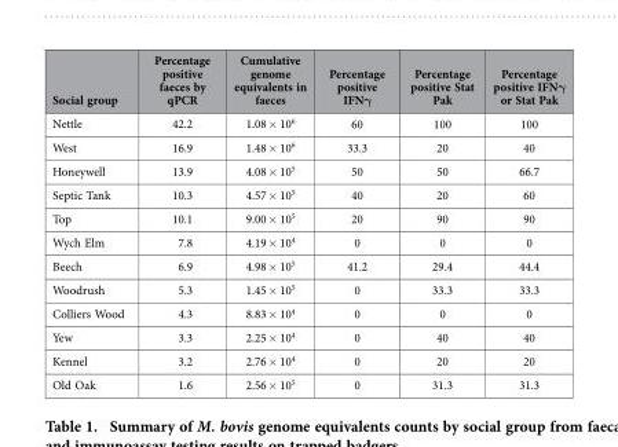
<table><thead><tr><td>Social group</td><td>Percentage positive faeces by qPCR</td><td>Cumulative genome equivalents in faeces</td><td>Percentage positive IFNγ</td><td>Percentage positive Stat Pak</td><td>Percentage positive IFNγ or Stat Pak</td></tr></thead><tbody><tr><td>Nettle</td><td>42.2</td><td>1.08 × 10<sup>6</sup></td><td>60</td><td>100</td><td>100</td></tr><tr><td>West</td><td>16.9</td><td>1.48 × 10<sup>6</sup></td><td>33.3</td><td>20</td><td>40</td></tr><tr><td>Honeywell</td><td>13.9</td><td>4.08 × 10<sup>5</sup></td><td>50</td><td>50</td><td>66.7</td></tr><tr><td>Septic Tank</td><td>10.3</td><td>4.57 × 10<sup>5</sup></td><td>40</td><td>20</td><td>60</td></tr><tr><td>Top</td><td>10.1</td><td>9.00 × 10<sup>5</sup></td><td>20</td><td>90</td><td>90</td></tr><tr><td>Wych Elm</td><td>7.8</td><td>4.19 × 10<sup>4</sup></td><td>0</td><td>0</td><td>0</td></tr><tr><td>Beech</td><td>6.9</td><td>4.98 × 10<sup>5</sup></td><td>41.2</td><td>29.4</td><td>44.4</td></tr><tr><td>Woodrush</td><td>5.3</td><td>1.45 × 10<sup>5</sup></td><td>0</td><td>33.3</td><td>33.3</td></tr><tr><td>Colliers Wood</td><td>4.3</td><td>8.83 × 10<sup>4</sup></td><td>0</td><td>0</td><td>0</td></tr><tr><td>Yew</td><td>3.3</td><td>2.25 × 10<sup>4</sup></td><td>0</td><td>40</td><td>40</td></tr><tr><td>Kennel</td><td>3.2</td><td>2.76 × 10<sup>4</sup></td><td>0</td><td>20</td><td>20</td></tr><tr><td>Old Oak</td><td>1.6</td><td>2.56 × 10<sup>5</sup></td><td>0</td><td>31.3</td><td>31.3</td></tr></tbody></table>